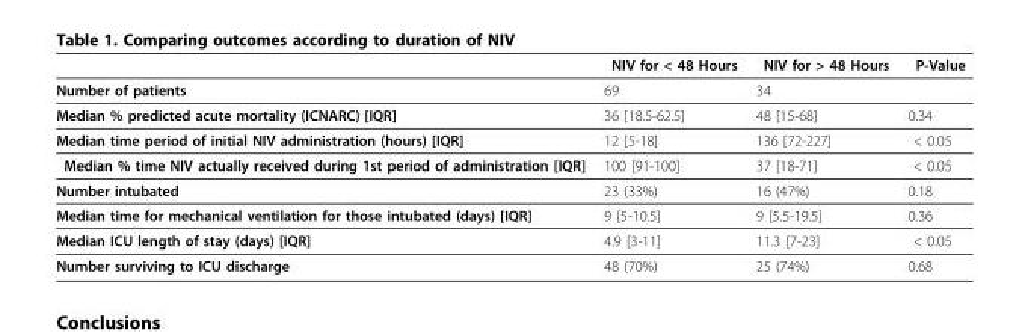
<table><thead><tr><td></td><td>NIV for &lt; 48 Hours</td><td>NIV for &gt; 48 Hours</td><td>P-Value</td></tr></thead><tbody><tr><td>Number of patients</td><td>69</td><td>34</td><td></td></tr><tr><td>Median % predicted acute mortality (ICNARC) [IQR]</td><td>36 [18.5-62.5]</td><td>48 [15-68]</td><td>0.34</td></tr><tr><td>Median time period of initial NIV administration (hours) [IQR]</td><td>12 [5-18]</td><td>136 [72-227]</td><td>&lt; 0.05</td></tr><tr><td>Median % time NIV actually received during 1st period of administration [IQR]</td><td>100 [91-100]</td><td>37 [18-71]</td><td>&lt; 0.05</td></tr><tr><td>Number intubated</td><td>23 (33%)</td><td>16 (47%)</td><td>0.18</td></tr><tr><td>Median time for mechanical ventilation for those intubated (days) [IQR]</td><td>9 [5-10.5]</td><td>9 [5.5-19.5]</td><td>0.36</td></tr><tr><td>Median ICU length of stay (days) [IQR]</td><td>4.9 [3-11]</td><td>11.3 [7-23]</td><td>&lt; 0.05</td></tr><tr><td>Number surviving to ICU discharge</td><td>48 (70%)</td><td>25 (74%)</td><td>0.68</td></tr></tbody></table>